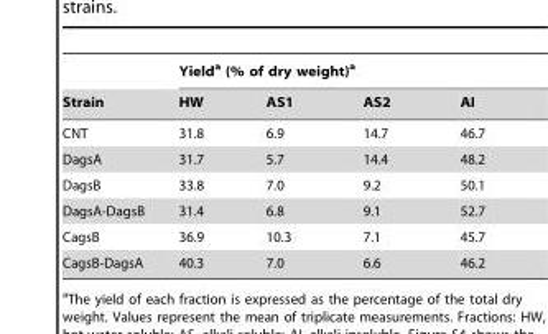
<table><thead><tr><td rowspan="2">Strain</td><td colspan="4">Yield<sup>a</sup> (% of dry weight)<sup>a</sup></td></tr><tr><td>HW</td><td>AS1</td><td>AS2</td><td>AI</td></tr></thead><tbody><tr><td>CNT</td><td>31.8</td><td>6.9</td><td>14.7</td><td>46.7</td></tr><tr><td>DagsA</td><td>31.7</td><td>5.7</td><td>14.4</td><td>48.2</td></tr><tr><td>DagsB</td><td>33.8</td><td>7.0</td><td>9.2</td><td>50.1</td></tr><tr><td>DagsA-DagsB</td><td>31.4</td><td>6.8</td><td>9.1</td><td>52.7</td></tr><tr><td>CagsB</td><td>36.9</td><td>10.3</td><td>7.1</td><td>45.7</td></tr><tr><td>CagsB-DagsA</td><td>40.3</td><td>7.0</td><td>6.6</td><td>46.2</td></tr></tbody></table>